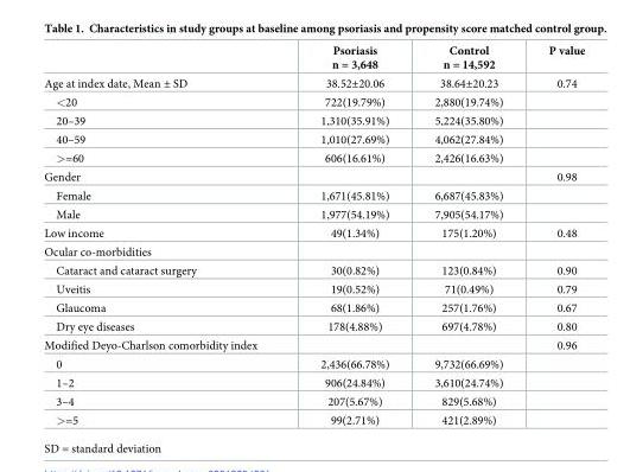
<table><thead><tr><td></td><td>Psoriasis n = 3,648</td><td>Control n = 14,592</td><td>P value</td></tr></thead><tbody><tr><td>Age at index date, Mean ± SD</td><td>38.52±20.06</td><td>38.64±20.23</td><td>0.74</td></tr><tr><td>&lt;20</td><td>722(19.79%)</td><td>2,880(19.74%)</td><td></td></tr><tr><td>20–39</td><td>1,310(35.91%)</td><td>5,224(35.80%)</td><td></td></tr><tr><td>40–59</td><td>1,010(27.69%)</td><td>4,062(27.84%)</td><td></td></tr><tr><td>&gt;=60</td><td>606(16.61%)</td><td>2,426(16.63%)</td><td></td></tr><tr><td>Gender</td><td></td><td></td><td>0.98</td></tr><tr><td>Female</td><td>1,671(45.81%)</td><td>6,687(45.83%)</td><td></td></tr><tr><td>Male</td><td>1,977(54.19%)</td><td>7,905(54.17%)</td><td></td></tr><tr><td>Low income</td><td>49(1.34%)</td><td>175(1.20%)</td><td>0.48</td></tr><tr><td colspan="4">Ocular co-morbidities</td></tr><tr><td>Cataract and cataract surgery</td><td>30(0.82%)</td><td>123(0.84%)</td><td>0.90</td></tr><tr><td>Uveitis</td><td>19(0.52%)</td><td>71(0.49%)</td><td>0.79</td></tr><tr><td>Glaucoma</td><td>68(1.86%)</td><td>257(1.76%)</td><td>0.67</td></tr><tr><td>Dry eye diseases</td><td>178(4.88%)</td><td>697(4.78%)</td><td>0.80</td></tr><tr><td>Modified Deyo-Charlson comorbidity index</td><td></td><td></td><td>0.96</td></tr><tr><td>0</td><td>2,436(66.78%)</td><td>9,732(66.69%)</td><td></td></tr><tr><td>1–2</td><td>906(24.84%)</td><td>3,610(24.74%)</td><td></td></tr><tr><td>3–4</td><td>207(5.67%)</td><td>829(5.68%)</td><td></td></tr><tr><td>&gt;=5</td><td>99(2.71%)</td><td>421(2.89%)</td><td></td></tr></tbody></table>